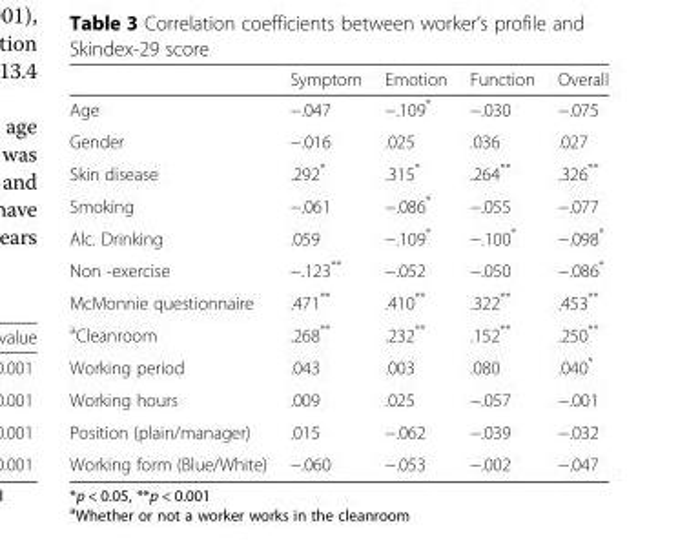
<table><thead><tr><td></td><td>Symptom</td><td>Emotion</td><td>Function</td><td>Overall</td></tr></thead><tbody><tr><td>Age</td><td>−.047</td><td>−.109*</td><td>−.030</td><td>−.075</td></tr><tr><td>Gender</td><td>−.016</td><td>.025</td><td>.036</td><td>.027</td></tr><tr><td>Skin disease</td><td>.292*</td><td>.315*</td><td>.264**</td><td>.326**</td></tr><tr><td>Smoking</td><td>−.061</td><td>−.086*</td><td>−.055</td><td>−.077</td></tr><tr><td>Alc. Drinking</td><td>.059</td><td>−.109*</td><td>−.100*</td><td>−.098*</td></tr><tr><td>Non -exercise</td><td>−.123**</td><td>−.052</td><td>−.050</td><td>−.086*</td></tr><tr><td>McMonnie questionnaire</td><td>.471**</td><td>.410**</td><td>.322**</td><td>.453**</td></tr><tr><td><sup>a</sup>Cleanroom</td><td>.268**</td><td>.232**</td><td>.152**</td><td>.250**</td></tr><tr><td>Working period</td><td>.043</td><td>.003</td><td>.080</td><td>.040*</td></tr><tr><td>Working hours</td><td>.009</td><td>.025</td><td>−.057</td><td>−.001</td></tr><tr><td>Position (plain/manager)</td><td>.015</td><td>−.062</td><td>−.039</td><td>−.032</td></tr><tr><td>Working form (Blue/White)</td><td>−.060</td><td>−.053</td><td>−.002</td><td>−.047</td></tr></tbody></table>